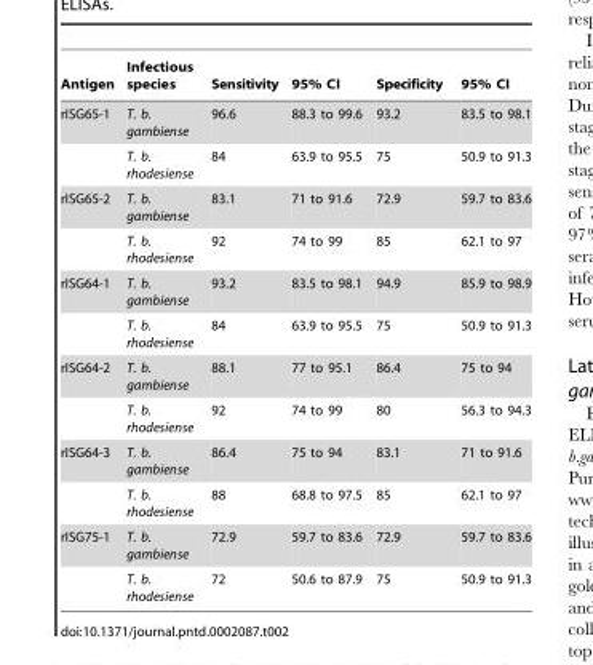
<table><thead><tr><td>Antigen</td><td>Infectious species</td><td>Sensitivity</td><td>95% CI</td><td>Specificity</td><td>95% CI</td></tr></thead><tbody><tr><td rowspan="2">rISG65-1</td><td>T. b. gambiense</td><td>96.6</td><td>88.3 to 99.6</td><td>93.2</td><td>83.5 to 98.1</td></tr><tr><td>T. b. rhodesiense</td><td>84</td><td>63.9 to 95.5</td><td>75</td><td>50.9 to 91.3</td></tr><tr><td rowspan="2">rISG65-2</td><td>T. b. gambiense</td><td>83.1</td><td>71 to 91.6</td><td>72.9</td><td>59.7 to 83.6</td></tr><tr><td>T. b. rhodesiense</td><td>92</td><td>74 to 99</td><td>85</td><td>62.1 to 97</td></tr><tr><td rowspan="2">rISG64-1</td><td>T. b. gambiense</td><td>93.2</td><td>83.5 to 98.1</td><td>94.9</td><td>85.9 to 98.9</td></tr><tr><td>T. b. rhodesiense</td><td>84</td><td>63.9 to 95.5</td><td>75</td><td>50.9 to 91.3</td></tr><tr><td rowspan="2">rISG64-2</td><td>T. b. gambiense</td><td>88.1</td><td>77 to 95.1</td><td>86.4</td><td>75 to 94</td></tr><tr><td>T. b. rhodesiense</td><td>92</td><td>74 to 99</td><td>80</td><td>56.3 to 94.3</td></tr><tr><td rowspan="2">rISG64-3</td><td>T. b. gambiense</td><td>86.4</td><td>75 to 94</td><td>83.1</td><td>71 to 91.6</td></tr><tr><td>T. b. rhodesiense</td><td>88</td><td>68.8 to 97.5</td><td>85</td><td>62.1 to 97</td></tr><tr><td rowspan="2">rISG75-1</td><td>T. b. gambiense</td><td>72.9</td><td>59.7 to 83.6</td><td>72.9</td><td>59.7 to 83.6</td></tr><tr><td>T. b. rhodesiense</td><td>72</td><td>50.6 to 87.9</td><td>75</td><td>50.9 to 91.3</td></tr></tbody></table>